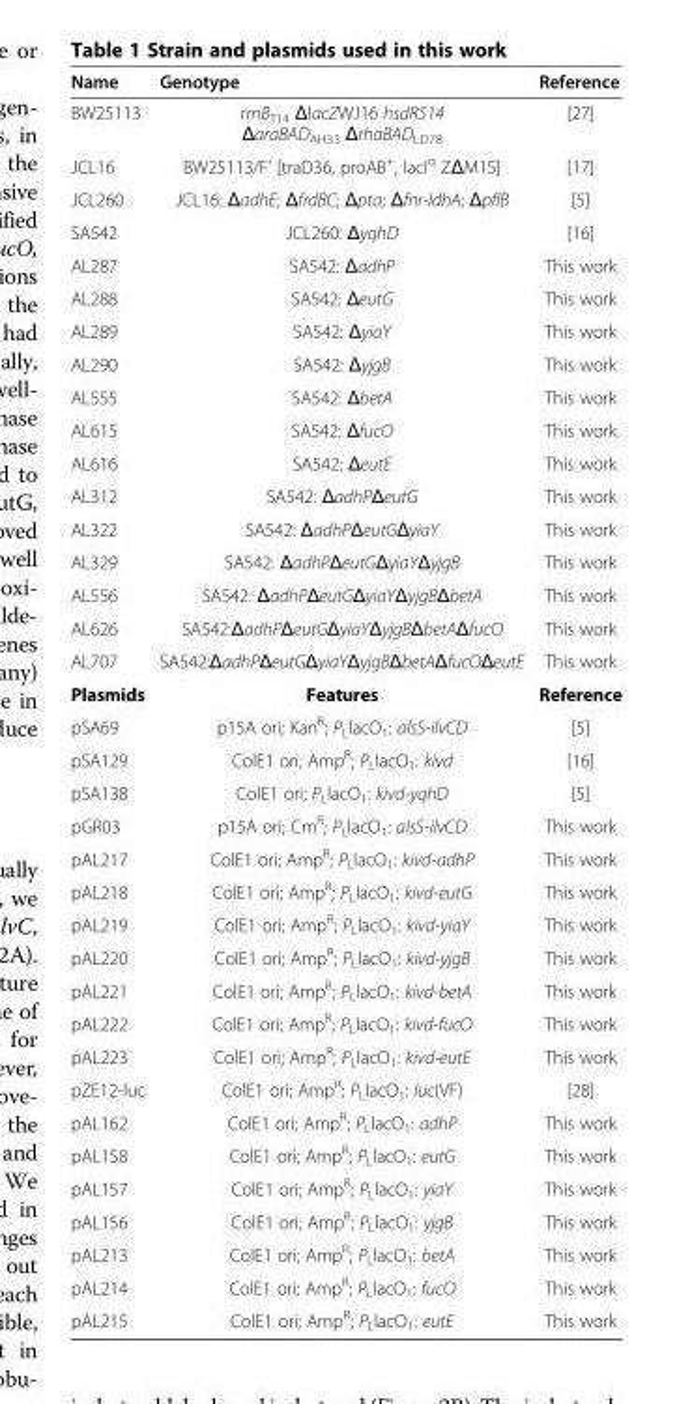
<table><thead><tr><td>Name</td><td>Genotype</td><td>Reference</td></tr></thead><tbody><tr><td>BW25113</td><td>rrnB<sub>T14</sub> ΔlacZWJ16 hsdR514 ΔaraBAD<sub>AH33</sub> ΔrhaBAD<sub>LD78</sub></td><td>[27]</td></tr><tr><td>JCL16</td><td>BW25113/F’ [traD36, proAB<sup>+</sup>, lacI<sup>q</sup> ZΔM15]</td><td>[17]</td></tr><tr><td>JCL260</td><td>JCL16: ΔadhE; ΔfrdBC; Δpta; Δfnr-ldhA; ΔpflB</td><td>[5]</td></tr><tr><td>SA542</td><td>JCL260: ΔyqhD</td><td>[16]</td></tr><tr><td>AL287</td><td>SA542: ΔadhP</td><td>This work</td></tr><tr><td>AL288</td><td>SA542: ΔeutG</td><td>This work</td></tr><tr><td>AL289</td><td>SA542: ΔyiaY</td><td>This work</td></tr><tr><td>AL290</td><td>SA542: ΔyjgB</td><td>This work</td></tr><tr><td>AL555</td><td>SA542: ΔbetA</td><td>This work</td></tr><tr><td>AL615</td><td>SA542: ΔfucO</td><td>This work</td></tr><tr><td>AL616</td><td>SA542: ΔeutE</td><td>This work</td></tr><tr><td>AL312</td><td>SA542: ΔadhPΔeutG</td><td>This work</td></tr><tr><td>AL322</td><td>SA542: ΔadhPΔeutGΔyiaY</td><td>This work</td></tr><tr><td>AL329</td><td>SA542: ΔadhPΔeutGΔyiaYΔyjgB</td><td>This work</td></tr><tr><td>AL556</td><td>SA542: ΔadhPΔeutGΔyiaYΔyjgBΔbetA</td><td>This work</td></tr><tr><td>AL626</td><td>SA542:ΔadhPΔeutGΔyiaYΔyjgBΔbetAΔfucO</td><td>This work</td></tr><tr><td>AL707</td><td>SA542:ΔadhPΔeutGΔyiaYΔyjgBΔbetAΔfucOΔeutE</td><td>This work</td></tr><tr><td>Plasmids</td><td>Features</td><td>Reference</td></tr><tr><td>pSA69</td><td>p15A ori; Kan<sup>R</sup>; P<sub>L</sub>lacO<sub>1</sub>: alsS-ilvCD</td><td>[5]</td></tr><tr><td>pSA129</td><td>ColE1 ori; Amp<sup>R</sup>; P<sub>L</sub>lacO<sub>1</sub>: kivd</td><td>[16]</td></tr><tr><td>pSA138</td><td>ColE1 ori; P<sub>L</sub>lacO<sub>1</sub>: kivd-yqhD</td><td>[5]</td></tr><tr><td>pGR03</td><td>p15A ori; Cm<sup>R</sup>; P<sub>L</sub>lacO<sub>1</sub>: alsS-ilvCD</td><td>This work</td></tr><tr><td>pAL217</td><td>ColE1 ori; Amp<sup>R</sup>; P<sub>L</sub>lacO<sub>1</sub>: kivd-adhP</td><td>This work</td></tr><tr><td>pAL218</td><td>ColE1 ori; Amp<sup>R</sup>; P<sub>L</sub>lacO<sub>1</sub>: kivd-eutG</td><td>This work</td></tr><tr><td>pAL219</td><td>ColE1 ori; Amp<sup>R</sup>; P<sub>L</sub>lacO<sub>1</sub>: kivd-yiaY</td><td>This work</td></tr><tr><td>pAL220</td><td>ColE1 ori; Amp<sup>R</sup>; P<sub>L</sub>lacO<sub>1</sub>: kivd-yjgB</td><td>This work</td></tr><tr><td>pAL221</td><td>ColE1 ori; Amp<sup>R</sup>; P<sub>L</sub>lacO<sub>1</sub>: kivd-betA</td><td>This work</td></tr><tr><td>pAL222</td><td>ColE1 ori; Amp<sup>R</sup>; P<sub>L</sub>lacO<sub>1</sub>: kivd-fucO</td><td>This work</td></tr><tr><td>pAL223</td><td>ColE1 ori; Amp<sup>R</sup>; P<sub>L</sub>lacO<sub>1</sub>: kivd-eutE</td><td>This work</td></tr><tr><td>pZE12-luc</td><td>ColE1 ori; Amp<sup>R</sup>; P<sub>L</sub>lacO<sub>1</sub>: luc(VF)</td><td>[28]</td></tr><tr><td>pAL162</td><td>ColE1 ori; Amp<sup>R</sup>; P<sub>L</sub>lacO<sub>1</sub>: adhP</td><td>This work</td></tr><tr><td>pAL158</td><td>ColE1 ori; Amp<sup>R</sup>; P<sub>L</sub>lacO<sub>1</sub>: eutG</td><td>This work</td></tr><tr><td>pAL157</td><td>ColE1 ori; Amp<sup>R</sup>; P<sub>L</sub>lacO<sub>1</sub>: yiaY</td><td>This work</td></tr><tr><td>pAL156</td><td>ColE1 ori; Amp<sup>R</sup>; P<sub>L</sub>lacO<sub>1</sub>: yjgB</td><td>This work</td></tr><tr><td>pAL213</td><td>ColE1 ori; Amp<sup>R</sup>; P<sub>L</sub>lacO<sub>1</sub>: betA</td><td>This work</td></tr><tr><td>pAL214</td><td>ColE1 ori; Amp<sup>R</sup>; P<sub>L</sub>lacO<sub>1</sub>: fucO</td><td>This work</td></tr><tr><td>pAL215</td><td>ColE1 ori; Amp<sup>R</sup>; P<sub>L</sub>lacO<sub>1</sub>: eutE</td><td>This work</td></tr></tbody></table>